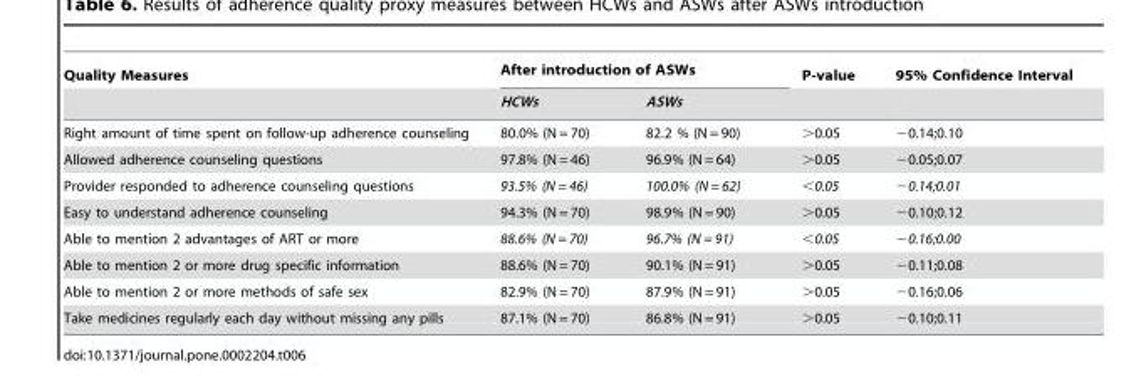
<table><thead><tr><td rowspan="2">Quality Measures</td><td colspan="2">After introduction of ASWs</td><td rowspan="2">P-value</td><td rowspan="2">95% Confidence Interval</td></tr><tr><td>HCWs</td><td>ASWs</td></tr></thead><tbody><tr><td>Right amount of time spent on follow-up adherence counseling</td><td>80.0% (N = 70)</td><td>82.2 % (N = 90)</td><td>&gt;0.05</td><td>−0.14;0.10</td></tr><tr><td>Allowed adherence counseling questions</td><td>97.8% (N = 46)</td><td>96.9% (N = 64)</td><td>&gt;0.05</td><td>−0.05;0.07</td></tr><tr><td>Provider responded to adherence counseling questions</td><td>93.5% (N = 46)</td><td>100.0% (N = 62)</td><td>&lt;0.05</td><td>−0.14;0.01</td></tr><tr><td>Easy to understand adherence counseling</td><td>94.3% (N = 70)</td><td>98.9% (N = 90)</td><td>&gt;0.05</td><td>−0.10;0.12</td></tr><tr><td>Able to mention 2 advantages of ART or more</td><td>88.6% (N = 70)</td><td>96.7% (N = 91)</td><td>&lt;0.05</td><td>−0.16;0.00</td></tr><tr><td>Able to mention 2 or more drug specific information</td><td>88.6% (N = 70)</td><td>90.1% (N = 91)</td><td>&gt;0.05</td><td>−0.11;0.08</td></tr><tr><td>Able to mention 2 or more methods of safe sex</td><td>82.9% (N = 70)</td><td>87.9% (N = 91)</td><td>&gt;0.05</td><td>−0.16;0.06</td></tr><tr><td>Take medicines regularly each day without missing any pills</td><td>87.1% (N = 70)</td><td>86.8% (N = 91)</td><td>&gt;0.05</td><td>−0.10;0.11</td></tr></tbody></table>